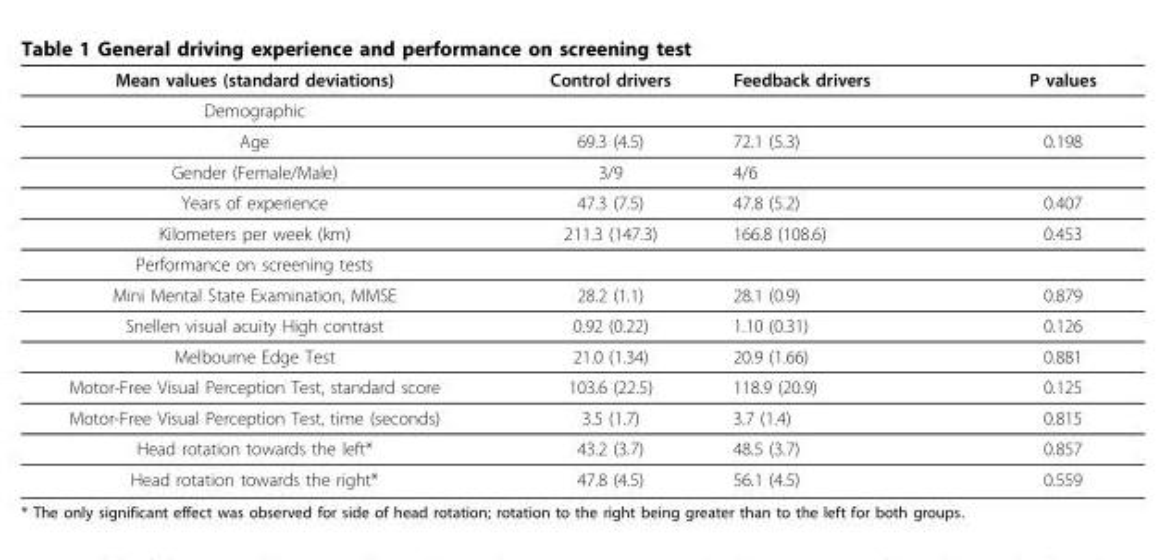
<table><thead><tr><td>Mean values (standard deviations)</td><td>Control drivers</td><td>Feedback drivers</td><td>P values</td></tr></thead><tbody><tr><td colspan="4">Demographic</td></tr><tr><td>Age</td><td>69.3 (4.5)</td><td>72.1 (5.3)</td><td>0.198</td></tr><tr><td>Gender (Female/Male)</td><td>3/9</td><td>4/6</td><td></td></tr><tr><td>Years of experience</td><td>47.3 (7.5)</td><td>47.8 (5.2)</td><td>0.407</td></tr><tr><td>Kilometers per week (km)</td><td>211.3 (147.3)</td><td>166.8 (108.6)</td><td>0.453</td></tr><tr><td colspan="4">Performance on screening tests</td></tr><tr><td>Mini Mental State Examination, MMSE</td><td>28.2 (1.1)</td><td>28.1 (0.9)</td><td>0.879</td></tr><tr><td>Snellen visual acuity High contrast</td><td>0.92 (0.22)</td><td>1.10 (0.31)</td><td>0.126</td></tr><tr><td>Melbourne Edge Test</td><td>21.0 (1.34)</td><td>20.9 (1.66)</td><td>0.881</td></tr><tr><td>Motor-Free Visual Perception Test, standard score</td><td>103.6 (22.5)</td><td>118.9 (20.9)</td><td>0.125</td></tr><tr><td>Motor-Free Visual Perception Test, time (seconds)</td><td>3.5 (1.7)</td><td>3.7 (1.4)</td><td>0.815</td></tr><tr><td>Head rotation towards the left*</td><td>43.2 (3.7)</td><td>48.5 (3.7)</td><td>0.857</td></tr><tr><td>Head rotation towards the right*</td><td>47.8 (4.5)</td><td>56.1 (4.5)</td><td>0.559</td></tr></tbody></table>